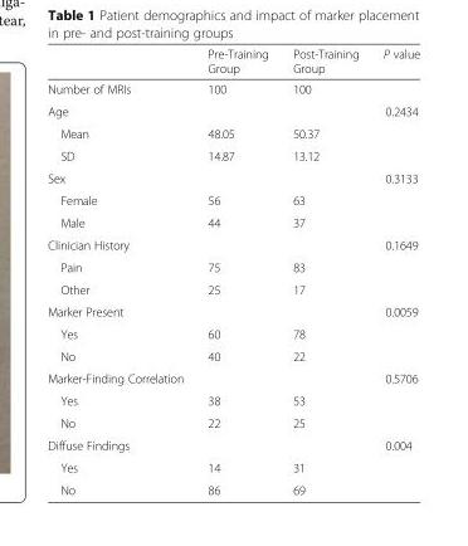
<table><thead><tr><td></td><td>Pre-Training Group</td><td>Post-Training Group</td><td>P value</td></tr></thead><tbody><tr><td>Number of MRIs</td><td>100</td><td>100</td><td></td></tr><tr><td>Age</td><td></td><td></td><td>0.2434</td></tr><tr><td>Mean</td><td>48.05</td><td>50.37</td><td></td></tr><tr><td>SD</td><td>14.87</td><td>13.12</td><td></td></tr><tr><td>Sex</td><td></td><td></td><td>0.3133</td></tr><tr><td>Female</td><td>56</td><td>63</td><td></td></tr><tr><td>Male</td><td>44</td><td>37</td><td></td></tr><tr><td>Clinician History</td><td></td><td></td><td>0.1649</td></tr><tr><td>Pain</td><td>75</td><td>83</td><td></td></tr><tr><td>Other</td><td>25</td><td>17</td><td></td></tr><tr><td>Marker Present</td><td></td><td></td><td>0.0059</td></tr><tr><td>Yes</td><td>60</td><td>78</td><td></td></tr><tr><td>No</td><td>40</td><td>22</td><td></td></tr><tr><td>Marker-Finding Correlation</td><td></td><td></td><td>0.5706</td></tr><tr><td>Yes</td><td>38</td><td>53</td><td></td></tr><tr><td>No</td><td>22</td><td>25</td><td></td></tr><tr><td>Diffuse Findings</td><td></td><td></td><td>0.004</td></tr><tr><td>Yes</td><td>14</td><td>31</td><td></td></tr><tr><td>No</td><td>86</td><td>69</td><td></td></tr></tbody></table>